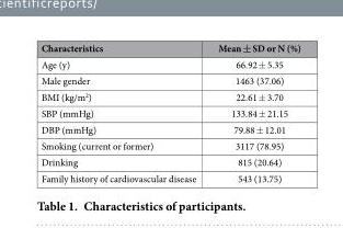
<table><thead><tr><td>Characteristics</td><td>Mean ± SD or N (%)</td></tr></thead><tbody><tr><td>Age (y)</td><td>66.92 ± 5.35</td></tr><tr><td>Male gender</td><td>1463 (37.06)</td></tr><tr><td>BMI (kg/m<sup>2</sup>)</td><td>22.61 ± 3.70</td></tr><tr><td>SBP (mmHg)</td><td>133.84 ± 21.15</td></tr><tr><td>DBP (mmHg)</td><td>79.88 ± 12.01</td></tr><tr><td>Smoking (current or former)</td><td>3117 (78.95)</td></tr><tr><td>Drinking</td><td>815 (20.64)</td></tr><tr><td>Family history of cardiovascular disease</td><td>543 (13.75)</td></tr></tbody></table>